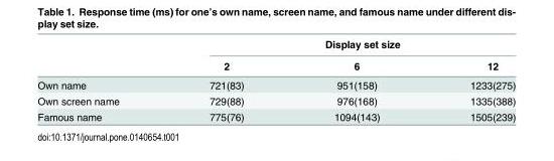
<table><thead><tr><td rowspan="2"></td><td colspan="3">Display set size</td></tr><tr><td>2</td><td>6</td><td>12</td></tr></thead><tbody><tr><td>Own name</td><td>721(83)</td><td>951(158)</td><td>1233(275)</td></tr><tr><td>Own screen name</td><td>729(88)</td><td>976(168)</td><td>1335(388)</td></tr><tr><td>Famous name</td><td>775(76)</td><td>1094(143)</td><td>1505(239)</td></tr></tbody></table>